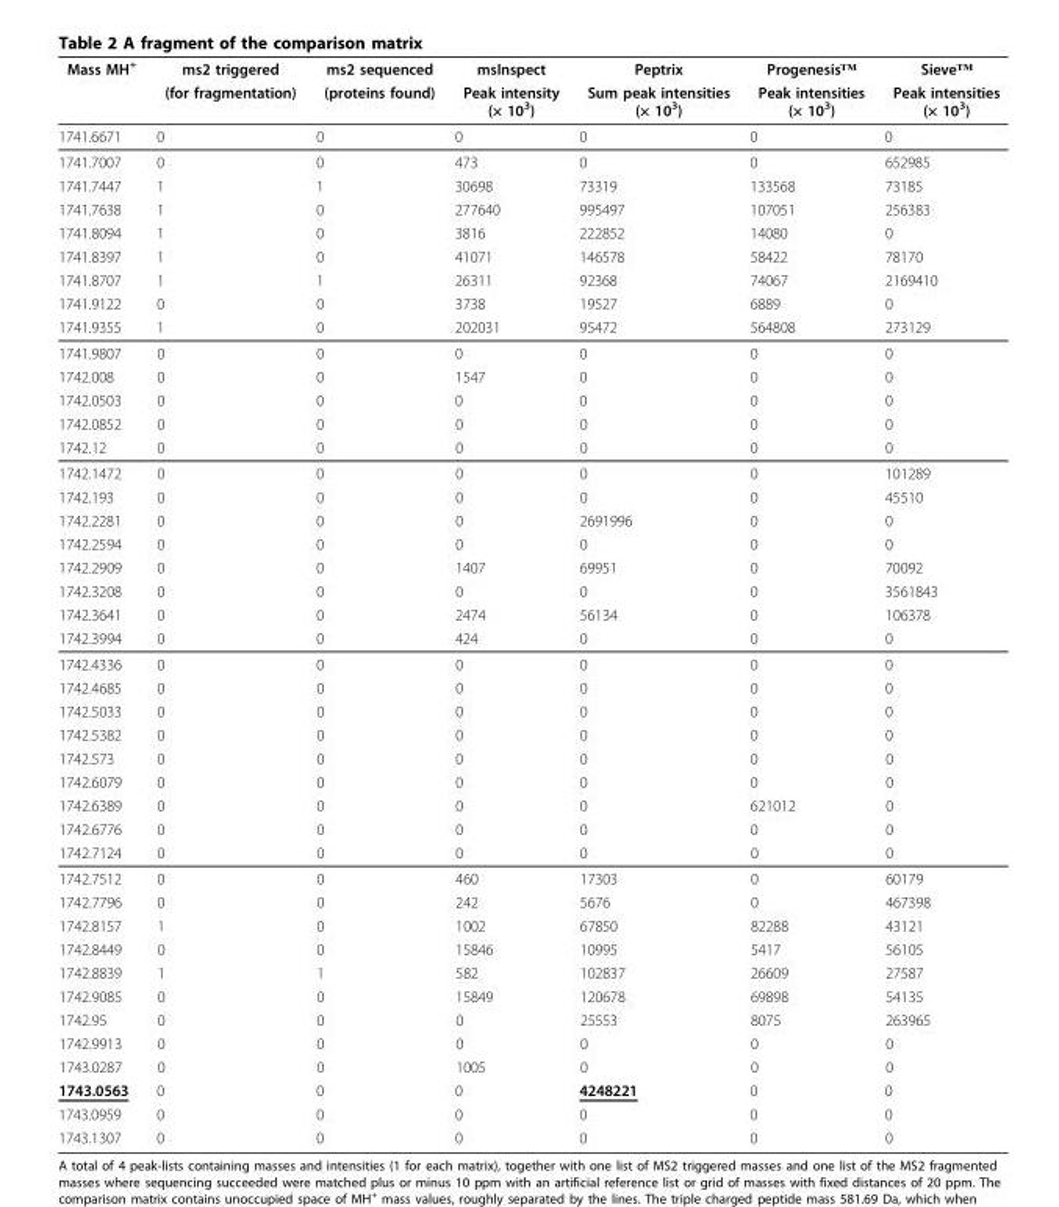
<table><thead><tr><td rowspan="2">Mass MH+</td><td rowspan="2">ms2 triggered (for fragmentation)</td><td rowspan="2">ms2 sequenced (proteins found)</td><td rowspan="2">msInspect Peak intensity (× 103)</td><td rowspan="2">Peptrix Sum peak intensities (× 103)</td><td rowspan="2">Progenesis™ Peak intensities (× 103)</td><td rowspan="2">Sieve™ Peak intensities (× 103)</td></tr><tr></tr></thead><tbody><tr><td>1741.6671</td><td>0</td><td>0</td><td>0</td><td>0</td><td>0</td><td>0</td></tr><tr><td>1741.7007</td><td>0</td><td>0</td><td>473</td><td>0</td><td>0</td><td>652985</td></tr><tr><td>1741.7447</td><td>1</td><td>1</td><td>30698</td><td>73319</td><td>133568</td><td>73185</td></tr><tr><td>1741.7638</td><td>1</td><td>0</td><td>277640</td><td>995497</td><td>107051</td><td>256383</td></tr><tr><td>1741.8094</td><td>1</td><td>0</td><td>3816</td><td>222852</td><td>14080</td><td>0</td></tr><tr><td>1741.8397</td><td>1</td><td>0</td><td>41071</td><td>146578</td><td>58422</td><td>78170</td></tr><tr><td>1741.8707</td><td>1</td><td>1</td><td>26311</td><td>92368</td><td>74067</td><td>2169410</td></tr><tr><td>1741.9122</td><td>0</td><td>0</td><td>3738</td><td>19527</td><td>6889</td><td>0</td></tr><tr><td>1741.9355</td><td>1</td><td>0</td><td>202031</td><td>95472</td><td>564808</td><td>273129</td></tr><tr><td>1741.9807</td><td>0</td><td>0</td><td>0</td><td>0</td><td>0</td><td>0</td></tr><tr><td>1742.008</td><td>0</td><td>0</td><td>1547</td><td>0</td><td>0</td><td>0</td></tr><tr><td>1742.0503</td><td>0</td><td>0</td><td>0</td><td>0</td><td>0</td><td>0</td></tr><tr><td>1742.0852</td><td>0</td><td>0</td><td>0</td><td>0</td><td>0</td><td>0</td></tr><tr><td>1742.12</td><td>0</td><td>0</td><td>0</td><td>0</td><td>0</td><td>0</td></tr><tr><td>1742.1472</td><td>0</td><td>0</td><td>0</td><td>0</td><td>0</td><td>101289</td></tr><tr><td>1742.193</td><td>0</td><td>0</td><td>0</td><td>0</td><td>0</td><td>45510</td></tr><tr><td>1742.2281</td><td>0</td><td>0</td><td>0</td><td>2691996</td><td>0</td><td>0</td></tr><tr><td>1742.2594</td><td>0</td><td>0</td><td>0</td><td>0</td><td>0</td><td>0</td></tr><tr><td>1742.2909</td><td>0</td><td>0</td><td>1407</td><td>69951</td><td>0</td><td>70092</td></tr><tr><td>1742.3208</td><td>0</td><td>0</td><td>0</td><td>0</td><td>0</td><td>3561843</td></tr><tr><td>1742.3641</td><td>0</td><td>0</td><td>2474</td><td>56134</td><td>0</td><td>106378</td></tr><tr><td>1742.3994</td><td>0</td><td>0</td><td>424</td><td>0</td><td>0</td><td>0</td></tr><tr><td>1742.4336</td><td>0</td><td>0</td><td>0</td><td>0</td><td>0</td><td>0</td></tr><tr><td>1742.4685</td><td>0</td><td>0</td><td>0</td><td>0</td><td>0</td><td>0</td></tr><tr><td>1742.5033</td><td>0</td><td>0</td><td>0</td><td>0</td><td>0</td><td>0</td></tr><tr><td>1742.5382</td><td>0</td><td>0</td><td>0</td><td>0</td><td>0</td><td>0</td></tr><tr><td>1742.573</td><td>0</td><td>0</td><td>0</td><td>0</td><td>0</td><td>0</td></tr><tr><td>1742.6079</td><td>0</td><td>0</td><td>0</td><td>0</td><td>0</td><td>0</td></tr><tr><td>1742.6389</td><td>0</td><td>0</td><td>0</td><td>0</td><td>621012</td><td>0</td></tr><tr><td>1742.6776</td><td>0</td><td>0</td><td>0</td><td>0</td><td>0</td><td>0</td></tr><tr><td>1742.7124</td><td>0</td><td>0</td><td>0</td><td>0</td><td>0</td><td>0</td></tr><tr><td>1742.7512</td><td>0</td><td>0</td><td>460</td><td>17303</td><td>0</td><td>60179</td></tr><tr><td>1742.7796</td><td>0</td><td>0</td><td>242</td><td>5676</td><td>0</td><td>467398</td></tr><tr><td>1742.8157</td><td>1</td><td>0</td><td>1002</td><td>67850</td><td>82288</td><td>43121</td></tr><tr><td>1742.8449</td><td>0</td><td>0</td><td>15846</td><td>10995</td><td>5417</td><td>56105</td></tr><tr><td>1742.8839</td><td>1</td><td>1</td><td>582</td><td>102837</td><td>26609</td><td>27587</td></tr><tr><td>1742.9085</td><td>0</td><td>0</td><td>15849</td><td>120678</td><td>69898</td><td>54135</td></tr><tr><td>1742.95</td><td>0</td><td>0</td><td>0</td><td>25553</td><td>8075</td><td>263965</td></tr><tr><td>1742.9913</td><td>0</td><td>0</td><td>0</td><td>0</td><td>0</td><td>0</td></tr><tr><td>1743.0287</td><td>0</td><td>0</td><td>1005</td><td>0</td><td>0</td><td>0</td></tr><tr><td>1743.0563</td><td>0</td><td>0</td><td>0</td><td>4248221</td><td>0</td><td>0</td></tr><tr><td>1743.0959</td><td>0</td><td>0</td><td>0</td><td>0</td><td>0</td><td>0</td></tr><tr><td>1743.1307</td><td>0</td><td>0</td><td>0</td><td>0</td><td>0</td><td>0</td></tr></tbody></table>